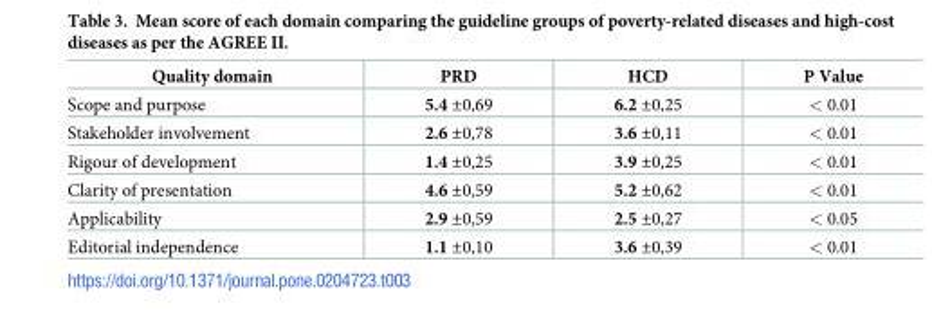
<table><thead><tr><td>Quality domain</td><td>PRD</td><td>HCD</td><td>P Value</td></tr></thead><tbody><tr><td>Scope and purpose</td><td>5.4 ±0,69</td><td>6.2 ±0,25</td><td>&lt; 0.01</td></tr><tr><td>Stakeholder involvement</td><td>2.6 ±0,78</td><td>3.6 ±0,11</td><td>&lt; 0.01</td></tr><tr><td>Rigour of development</td><td>1.4 ±0,25</td><td>3.9 ±0,25</td><td>&lt; 0.01</td></tr><tr><td>Clarity of presentation</td><td>4.6 ±0,59</td><td>5.2 ±0,62</td><td>&lt; 0.01</td></tr><tr><td>Applicability</td><td>2.9 ±0,59</td><td>2.5 ±0,27</td><td>&lt; 0.05</td></tr><tr><td>Editorial independence</td><td>1.1 ±0,10</td><td>3.6 ±0,39</td><td>&lt; 0.01</td></tr></tbody></table>